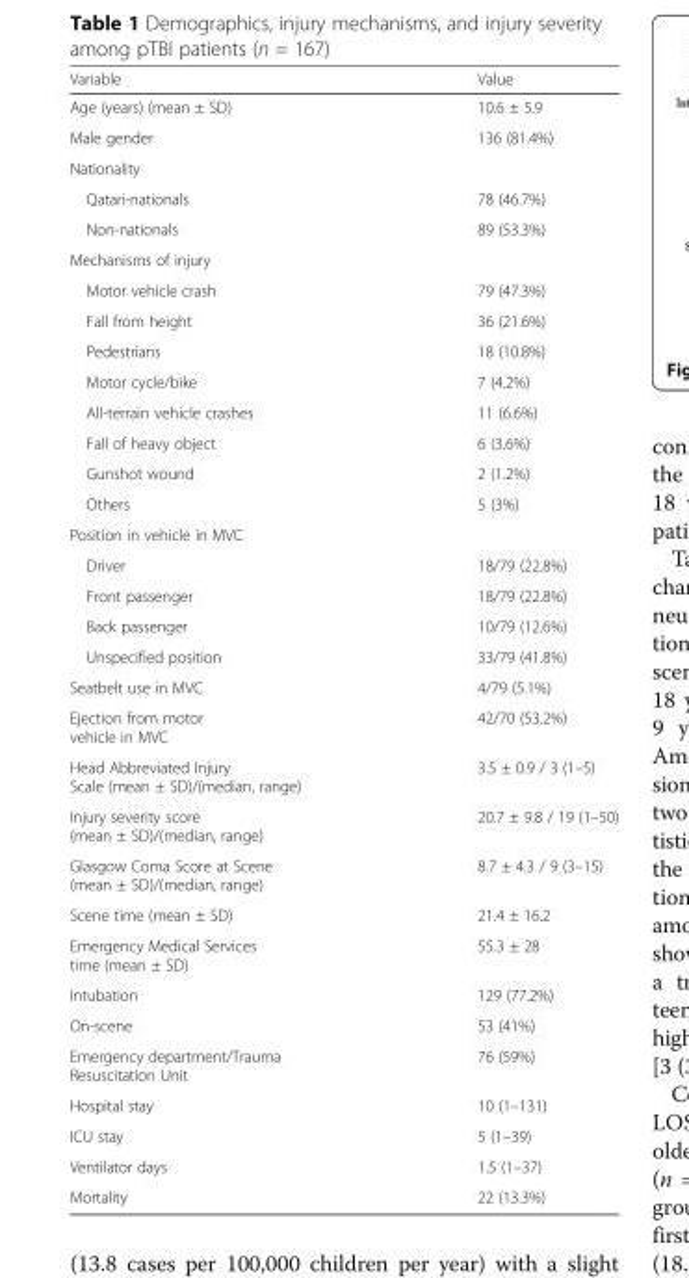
<table><thead><tr><td>Variable</td><td>Value</td></tr></thead><tbody><tr><td>Age (years) (mean ± SD)</td><td>10.6 ± 5.9</td></tr><tr><td>Male gender</td><td>136 (81.4%)</td></tr><tr><td colspan="2">Nationality</td></tr><tr><td>Qatari-nationals</td><td>78 (46.7%)</td></tr><tr><td>Non-nationals</td><td>89 (53.3%)</td></tr><tr><td colspan="2">Mechanisms of injury</td></tr><tr><td>Motor vehicle crash</td><td>79 (47.3%)</td></tr><tr><td>Fall from height</td><td>36 (21.6%)</td></tr><tr><td>Pedestrians</td><td>18 (10.8%)</td></tr><tr><td>Motor cycle/bike</td><td>7 (4.2%)</td></tr><tr><td>All-terrain vehicle crashes</td><td>11 (6.6%)</td></tr><tr><td>Fall of heavy object</td><td>6 (3.6%)</td></tr><tr><td>Gunshot wound</td><td>2 (1.2%)</td></tr><tr><td>Others</td><td>5 (3%)</td></tr><tr><td colspan="2">Position in vehicle in MVC</td></tr><tr><td>Driver</td><td>18/79 (22.8%)</td></tr><tr><td>Front passenger</td><td>18/79 (22.8%)</td></tr><tr><td>Back passenger</td><td>10/79 (12.6%)</td></tr><tr><td>Unspecified position</td><td>33/79 (41.8%)</td></tr><tr><td>Seatbelt use in MVC</td><td>4/79 (5.1%)</td></tr><tr><td>Ejection from motor vehicle in MVC</td><td>42/70 (53.2%)</td></tr><tr><td>Head Abbreviated Injury Scale (mean ± SD)/(median, range)</td><td>3.5 ± 0.9 / 3 (1–5)</td></tr><tr><td>Injury severity score (mean ± SD)/(median, range)</td><td>20.7 ± 9.8 / 19 (1–50)</td></tr><tr><td>Glasgow Coma Score at Scene (mean ± SD)/(median, range)</td><td>8.7 ± 4.3 / 9 (3–15)</td></tr><tr><td>Scene time (mean ± SD)</td><td>21.4 ± 16.2</td></tr><tr><td>Emergency Medical Services time (mean ± SD)</td><td>55.3 ± 28</td></tr><tr><td>Intubation</td><td>129 (77.2%)</td></tr><tr><td>On-scene</td><td>53 (41%)</td></tr><tr><td>Emergency department/Trauma Resuscitation Unit</td><td>76 (59%)</td></tr><tr><td>Hospital stay</td><td>10 (1–131)</td></tr><tr><td>ICU stay</td><td>5 (1–39)</td></tr><tr><td>Ventilator days</td><td>1.5 (1–37)</td></tr><tr><td>Mortality</td><td>22 (13.3%)</td></tr></tbody></table>